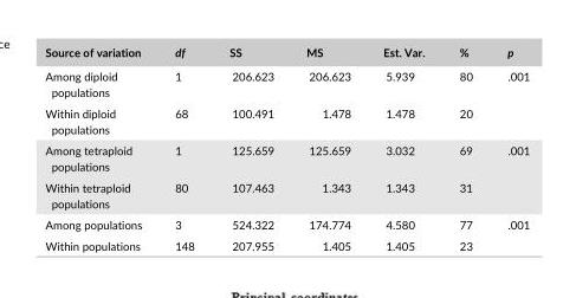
<table><thead><tr><td>Source of variation</td><td>df</td><td>SS</td><td>MS</td><td>Est. Var.</td><td>%</td><td>p</td></tr></thead><tbody><tr><td>Among diploid populations</td><td>1</td><td>206.623</td><td>206.623</td><td>5.939</td><td>80</td><td>.001</td></tr><tr><td>Within diploid populations</td><td>68</td><td>100.491</td><td>1.478</td><td>1.478</td><td>20</td><td></td></tr><tr><td>Among tetraploid populations</td><td>1</td><td>125.659</td><td>125.659</td><td>3.032</td><td>69</td><td>.001</td></tr><tr><td>Within tetraploid populations</td><td>80</td><td>107.463</td><td>1.343</td><td>1.343</td><td>31</td><td></td></tr><tr><td>Among populations</td><td>3</td><td>524.322</td><td>174.774</td><td>4.580</td><td>77</td><td>.001</td></tr><tr><td>Within populations</td><td>148</td><td>207.955</td><td>1.405</td><td>1.405</td><td>23</td><td></td></tr></tbody></table>